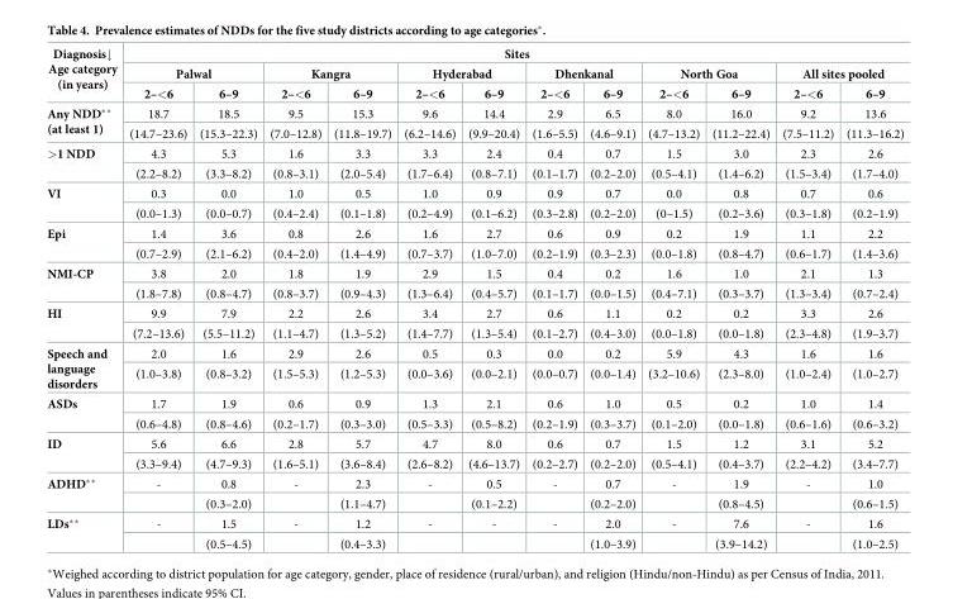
<table><thead><tr><td rowspan="3">Diagnosis↓ Age category (in years)</td><td colspan="12">Sites</td></tr><tr><td colspan="2">Palwal</td><td colspan="2">Kangra</td><td colspan="2">Hyderabad</td><td colspan="2">Dhenkanal</td><td colspan="2">North Goa</td><td colspan="2">All sites pooled</td></tr><tr><td>2–&lt;6</td><td>6–9</td><td>2–&lt;6</td><td>6–9</td><td>2–&lt;6</td><td>6–9</td><td>2–&lt;6</td><td>6–9</td><td>2–&lt;6</td><td>6–9</td><td>2–&lt;6</td><td>6–9</td></tr></thead><tbody><tr><td rowspan="2">Any NDD** (at least 1)</td><td>18.7</td><td>18.5</td><td>9.5</td><td>15.3</td><td>9.6</td><td>14.4</td><td>2.9</td><td>6.5</td><td>8.0</td><td>16.0</td><td>9.2</td><td>13.6</td></tr><tr><td>(14.7–23.6)</td><td>(15.3–22.3)</td><td>(7.0–12.8)</td><td>(11.8–19.7)</td><td>(6.2–14.6)</td><td>(9.9–20.4)</td><td>(1.6–5.5)</td><td>(4.6–9.1)</td><td>(4.7–13.2)</td><td>(11.2–22.4)</td><td>(7.5–11.2)</td><td>(11.3–16.2)</td></tr><tr><td rowspan="2">&gt;1 NDD</td><td>4.3</td><td>5.3</td><td>1.6</td><td>3.3</td><td>3.3</td><td>2.4</td><td>0.4</td><td>0.7</td><td>1.5</td><td>3.0</td><td>2.3</td><td>2.6</td></tr><tr><td>(2.2–8.2)</td><td>(3.3–8.2)</td><td>(0.8–3.1)</td><td>(2.0–5.4)</td><td>(1.7–6.4)</td><td>(0.8–7.1)</td><td>(0.1–1.7)</td><td>(0.2–2.0)</td><td>(0.5–4.1)</td><td>(1.4–6.2)</td><td>(1.5–3.4)</td><td>(1.7–4.0)</td></tr><tr><td rowspan="2">VI</td><td>0.3</td><td>0.0</td><td>1.0</td><td>0.5</td><td>1.0</td><td>0.9</td><td>0.9</td><td>0.7</td><td>0.0</td><td>0.8</td><td>0.7</td><td>0.6</td></tr><tr><td>(0.0–1.3)</td><td>(0.0–0.7)</td><td>(0.4–2.4)</td><td>(0.1–1.8)</td><td>(0.2–4.9)</td><td>(0.1–6.2)</td><td>(0.3–2.8)</td><td>(0.2–2.0)</td><td>(0–1.5)</td><td>(0.2–3.6)</td><td>(0.3–1.8)</td><td>(0.2–1.9)</td></tr><tr><td rowspan="2">Epi</td><td>1.4</td><td>3.6</td><td>0.8</td><td>2.6</td><td>1.6</td><td>2.7</td><td>0.6</td><td>0.9</td><td>0.2</td><td>1.9</td><td>1.1</td><td>2.2</td></tr><tr><td>(0.7–2.9)</td><td>(2.1–6.2)</td><td>(0.4–2.0)</td><td>(1.4–4.9)</td><td>(0.7–3.7)</td><td>(1.0–7.0)</td><td>(0.2–1.9)</td><td>(0.3–2.3)</td><td>(0.0–1.8)</td><td>(0.8–4.7)</td><td>(0.6–1.7)</td><td>(1.4–3.6)</td></tr><tr><td rowspan="2">NMI-CP</td><td>3.8</td><td>2.0</td><td>1.8</td><td>1.9</td><td>2.9</td><td>1.5</td><td>0.4</td><td>0.2</td><td>1.6</td><td>1.0</td><td>2.1</td><td>1.3</td></tr><tr><td>(1.8–7.8)</td><td>(0.8–4.7)</td><td>(0.8–3.7)</td><td>(0.9–4.3)</td><td>(1.3–6.4)</td><td>(0.4–5.7)</td><td>(0.1–1.7)</td><td>(0.0–1.5)</td><td>(0.4–7.1)</td><td>(0.3–3.7)</td><td>(1.3–3.4)</td><td>(0.7–2.4)</td></tr><tr><td rowspan="2">HI</td><td>9.9</td><td>7.9</td><td>2.2</td><td>2.6</td><td>3.4</td><td>2.7</td><td>0.6</td><td>1.1</td><td>0.2</td><td>0.2</td><td>3.3</td><td>2.6</td></tr><tr><td>(7.2–13.6)</td><td>(5.5–11.2)</td><td>(1.1–4.7)</td><td>(1.3–5.2)</td><td>(1.4–7.7)</td><td>(1.3–5.4)</td><td>(0.1–2.7)</td><td>(0.4–3.0)</td><td>(0.0–1.8)</td><td>(0.0–1.8)</td><td>(2.3–4.8)</td><td>(1.9–3.7)</td></tr><tr><td rowspan="2">Speech and language disorders</td><td>2.0</td><td>1.6</td><td>2.9</td><td>2.6</td><td>0.5</td><td>0.3</td><td>0.0</td><td>0.2</td><td>5.9</td><td>4.3</td><td>1.6</td><td>1.6</td></tr><tr><td>(1.0–3.8)</td><td>(0.8–3.2)</td><td>(1.5–5.3)</td><td>(1.2–5.3)</td><td>(0.0–3.6)</td><td>(0.0–2.1)</td><td>(0.0–0.7)</td><td>(0.0–1.4)</td><td>(3.2–10.6)</td><td>(2.3–8.0)</td><td>(1.0–2.4)</td><td>(1.0–2.7)</td></tr><tr><td rowspan="2">ASDs</td><td>1.7</td><td>1.9</td><td>0.6</td><td>0.9</td><td>1.3</td><td>2.1</td><td>0.6</td><td>1.0</td><td>0.5</td><td>0.2</td><td>1.0</td><td>1.4</td></tr><tr><td>(0.6–4.8)</td><td>(0.8–4.6)</td><td>(0.2–1.7)</td><td>(0.3–3.0)</td><td>(0.5–3.3)</td><td>(0.5–8.2)</td><td>(0.2–1.9)</td><td>(0.3–3.7)</td><td>(0.1–2.0)</td><td>(0.0–1.8)</td><td>(0.6–1.6)</td><td>(0.6–3.2)</td></tr><tr><td rowspan="2">ID</td><td>5.6</td><td>6.6</td><td>2.8</td><td>5.7</td><td>4.7</td><td>8.0</td><td>0.6</td><td>0.7</td><td>1.5</td><td>1.2</td><td>3.1</td><td>5.2</td></tr><tr><td>(3.3–9.4)</td><td>(4.7–9.3)</td><td>(1.6–5.1)</td><td>(3.6–8.4)</td><td>(2.6–8.2)</td><td>(4.6–13.7)</td><td>(0.2–2.7)</td><td>(0.2–2.0)</td><td>(0.5–4.1)</td><td>(0.4–3.7)</td><td>(2.2–4.2)</td><td>(3.4–7.7)</td></tr><tr><td rowspan="2">ADHD**</td><td>-</td><td>0.8</td><td>-</td><td>2.3</td><td>-</td><td>0.5</td><td>-</td><td>0.7</td><td>-</td><td>1.9</td><td>-</td><td>1.0</td></tr><tr><td></td><td>(0.3–2.0)</td><td></td><td>(1.1–4.7)</td><td></td><td>(0.1–2.2)</td><td></td><td>(0.2–2.0)</td><td></td><td>(0.8–4.5)</td><td></td><td>(0.6–1.5)</td></tr><tr><td rowspan="2">LDs**</td><td>-</td><td>1.5</td><td>-</td><td>1.2</td><td>-</td><td>-</td><td>-</td><td>2.0</td><td>-</td><td>7.6</td><td>-</td><td>1.6</td></tr><tr><td></td><td>(0.5–4.5)</td><td></td><td>(0.4–3.3)</td><td></td><td></td><td></td><td>(1.0–3.9)</td><td></td><td>(3.9–14.2)</td><td></td><td>(1.0–2.5)</td></tr></tbody></table>